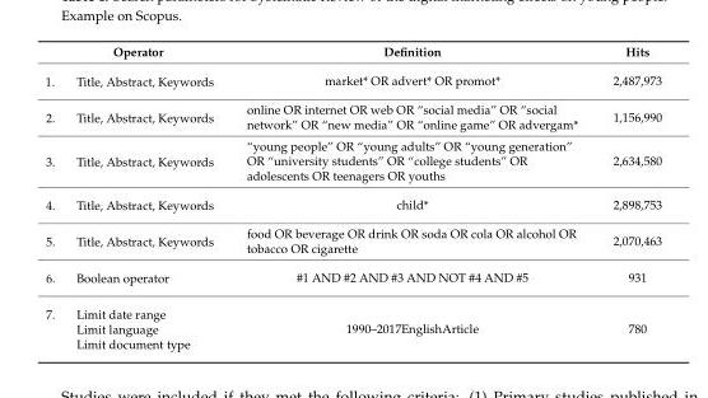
<table><thead><tr><td>Operator</td><td>Definition</td><td>Hits</td></tr></thead><tbody><tr><td>1. Title, Abstract, Keywords</td><td>market* OR advert* OR promot*</td><td>2,487,973</td></tr><tr><td>2. Title, Abstract, Keywords</td><td>online OR internet OR web OR “social media” OR “social network” OR “new media” OR “online game” OR advergam*</td><td>1,156,990</td></tr><tr><td>3. Title, Abstract, Keywords</td><td>“young people” OR “young adults” OR “young generation” OR “university students” OR “college students” OR adolescents OR teenagers OR youths</td><td>2,634,580</td></tr><tr><td>4. Title, Abstract, Keywords</td><td>child*</td><td>2,898,753</td></tr><tr><td>5. Title, Abstract, Keywords</td><td>food OR beverage OR drink OR soda OR cola OR alcohol OR tobacco OR cigarette</td><td>2,070,463</td></tr><tr><td>6. Boolean operator</td><td>#1 AND #2 AND #3 AND NOT #4 AND #5</td><td>931</td></tr><tr><td>7. Limit date range Limit language Limit document type</td><td>1990–2017EnglishArticle</td><td>780</td></tr></tbody></table>